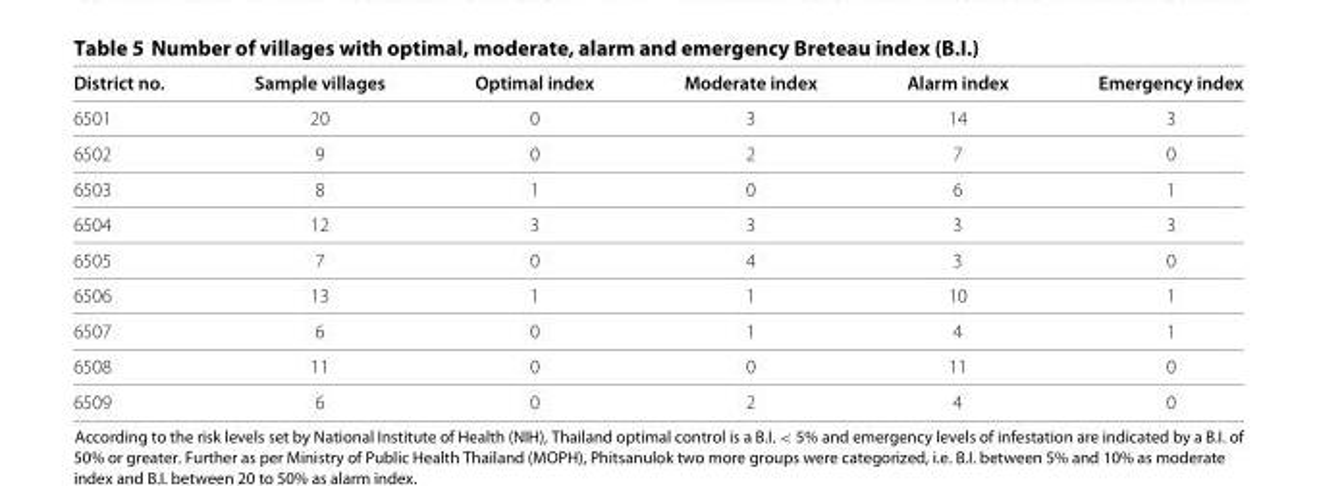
<table><thead><tr><td>District no.</td><td>Sample villages</td><td>Optimal index</td><td>Moderate index</td><td>Alarm index</td><td>Emergency index</td></tr></thead><tbody><tr><td>6501</td><td>20</td><td>0</td><td>3</td><td>14</td><td>3</td></tr><tr><td>6502</td><td>9</td><td>0</td><td>2</td><td>7</td><td>0</td></tr><tr><td>6503</td><td>8</td><td>1</td><td>0</td><td>6</td><td>1</td></tr><tr><td>6504</td><td>12</td><td>3</td><td>3</td><td>3</td><td>3</td></tr><tr><td>6505</td><td>7</td><td>0</td><td>4</td><td>3</td><td>0</td></tr><tr><td>6506</td><td>13</td><td>1</td><td>1</td><td>10</td><td>1</td></tr><tr><td>6507</td><td>6</td><td>0</td><td>1</td><td>4</td><td>1</td></tr><tr><td>6508</td><td>11</td><td>0</td><td>0</td><td>11</td><td>0</td></tr><tr><td>6509</td><td>6</td><td>0</td><td>2</td><td>4</td><td>0</td></tr></tbody></table>